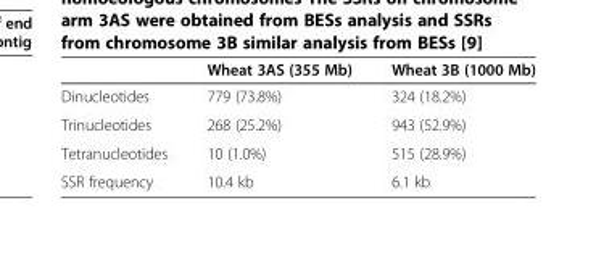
<table><thead><tr><td></td><td>Wheat 3AS (355 Mb)</td><td>Wheat 3B (1000 Mb)</td></tr></thead><tbody><tr><td>Dinucleotides</td><td>779 (73.8%)</td><td>324 (18.2%)</td></tr><tr><td>Trinucleotides</td><td>268 (25.2%)</td><td>943 (52.9%)</td></tr><tr><td>Tetranucleotides</td><td>10 (1.0%)</td><td>515 (28.9%)</td></tr><tr><td>SSR frequency</td><td>10.4 kb</td><td>6.1 kb</td></tr></tbody></table>